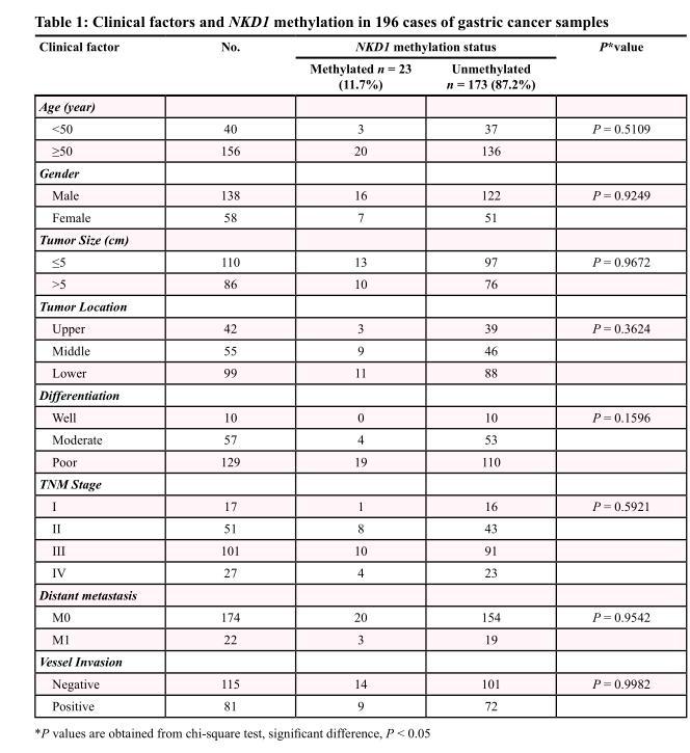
<table><thead><tr><td rowspan="2">Clinical factor</td><td rowspan="2">No.</td><td colspan="2">NKD1 methylation status</td><td rowspan="2">P*value</td></tr><tr><td>Methylated n = 23 (11.7%)</td><td>Unmethylated n = 173 (87.2%)</td></tr></thead><tbody><tr><td colspan="5">Age (year)</td></tr><tr><td>&lt;50</td><td>40</td><td>3</td><td>37</td><td>P = 0.5109</td></tr><tr><td>≥50</td><td>156</td><td>20</td><td>136</td><td></td></tr><tr><td colspan="5">Gender</td></tr><tr><td>Male</td><td>138</td><td>16</td><td>122</td><td>P = 0.9249</td></tr><tr><td>Female</td><td>58</td><td>7</td><td>51</td><td></td></tr><tr><td colspan="5">Tumor Size (cm)</td></tr><tr><td>≤5</td><td>110</td><td>13</td><td>97</td><td>P = 0.9672</td></tr><tr><td>&gt;5</td><td>86</td><td>10</td><td>76</td><td></td></tr><tr><td colspan="5">Tumor Location</td></tr><tr><td>Upper</td><td>42</td><td>3</td><td>39</td><td>P = 0.3624</td></tr><tr><td>Middle</td><td>55</td><td>9</td><td>46</td><td></td></tr><tr><td>Lower</td><td>99</td><td>11</td><td>88</td><td></td></tr><tr><td colspan="5">Differentiation</td></tr><tr><td>Well</td><td>10</td><td>0</td><td>10</td><td>P = 0.1596</td></tr><tr><td>Moderate</td><td>57</td><td>4</td><td>53</td><td></td></tr><tr><td>Poor</td><td>129</td><td>19</td><td>110</td><td></td></tr><tr><td colspan="5">TNM Stage</td></tr><tr><td>I</td><td>17</td><td>1</td><td>16</td><td>P = 0.5921</td></tr><tr><td>II</td><td>51</td><td>8</td><td>43</td><td></td></tr><tr><td>III</td><td>101</td><td>10</td><td>91</td><td></td></tr><tr><td>IV</td><td>27</td><td>4</td><td>23</td><td></td></tr><tr><td colspan="5">Distant metastasis</td></tr><tr><td>M0</td><td>174</td><td>20</td><td>154</td><td>P = 0.9542</td></tr><tr><td>M1</td><td>22</td><td>3</td><td>19</td><td></td></tr><tr><td colspan="5">Vessel Invasion</td></tr><tr><td>Negative</td><td>115</td><td>14</td><td>101</td><td>P = 0.9982</td></tr><tr><td>Positive</td><td>81</td><td>9</td><td>72</td><td></td></tr></tbody></table>